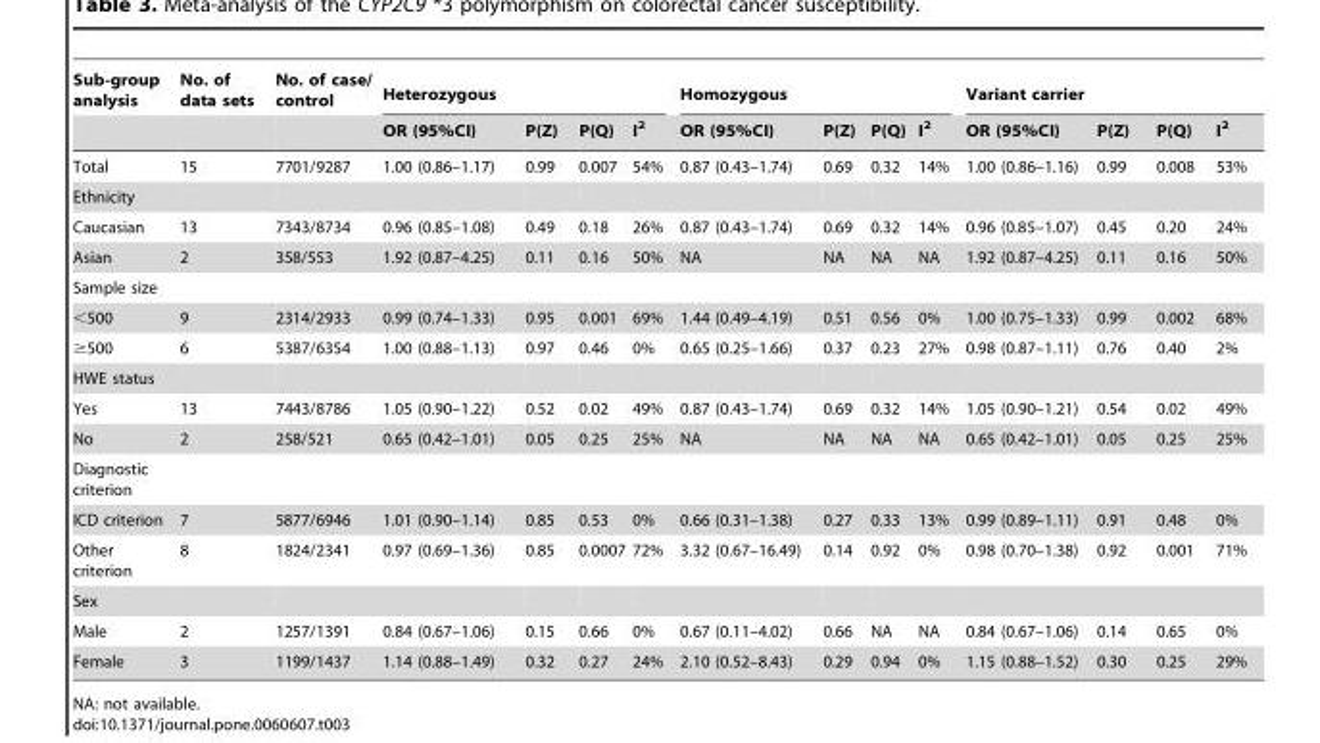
<table><thead><tr><td rowspan="2">Sub-group analysis</td><td rowspan="2">No. of data sets</td><td rowspan="2">No. of case/ control</td><td colspan="4">Heterozygous</td><td colspan="4">Homozygous</td><td colspan="4">Variant carrier</td></tr><tr><td>OR (95%CI)</td><td>P(Z)</td><td>P(Q)</td><td>I<sup>2</sup></td><td>OR (95%CI)</td><td>P(Z)</td><td>P(Q)</td><td>I<sup>2</sup></td><td>OR (95%CI)</td><td>P(Z)</td><td>P(Q)</td><td>I<sup>2</sup></td></tr></thead><tbody><tr><td>Total</td><td>15</td><td>7701/9287</td><td>1.00 (0.86–1.17)</td><td>0.99</td><td>0.007</td><td>54%</td><td>0.87 (0.43–1.74)</td><td>0.69</td><td>0.32</td><td>14%</td><td>1.00 (0.86–1.16)</td><td>0.99</td><td>0.008</td><td>53%</td></tr><tr><td colspan="15">Ethnicity</td></tr><tr><td>Caucasian</td><td>13</td><td>7343/8734</td><td>0.96 (0.85–1.08)</td><td>0.49</td><td>0.18</td><td>26%</td><td>0.87 (0.43–1.74)</td><td>0.69</td><td>0.32</td><td>14%</td><td>0.96 (0.85–1.07)</td><td>0.45</td><td>0.20</td><td>24%</td></tr><tr><td>Asian</td><td>2</td><td>358/553</td><td>1.92 (0.87–4.25)</td><td>0.11</td><td>0.16</td><td>50%</td><td>NA</td><td>NA</td><td>NA</td><td>NA</td><td>1.92 (0.87–4.25)</td><td>0.11</td><td>0.16</td><td>50%</td></tr><tr><td colspan="15">Sample size</td></tr><tr><td>&lt;500</td><td>9</td><td>2314/2933</td><td>0.99 (0.74–1.33)</td><td>0.95</td><td>0.001</td><td>69%</td><td>1.44 (0.49–4.19)</td><td>0.51</td><td>0.56</td><td>0%</td><td>1.00 (0.75–1.33)</td><td>0.99</td><td>0.002</td><td>68%</td></tr><tr><td>≥500</td><td>6</td><td>5387/6354</td><td>1.00 (0.88–1.13)</td><td>0.97</td><td>0.46</td><td>0%</td><td>0.65 (0.25–1.66)</td><td>0.37</td><td>0.23</td><td>27%</td><td>0.98 (0.87–1.11)</td><td>0.76</td><td>0.40</td><td>2%</td></tr><tr><td colspan="15">HWE status</td></tr><tr><td>Yes</td><td>13</td><td>7443/8786</td><td>1.05 (0.90–1.22)</td><td>0.52</td><td>0.02</td><td>49%</td><td>0.87 (0.43–1.74)</td><td>0.69</td><td>0.32</td><td>14%</td><td>1.05 (0.90–1.21)</td><td>0.54</td><td>0.02</td><td>49%</td></tr><tr><td>No</td><td>2</td><td>258/521</td><td>0.65 (0.42–1.01)</td><td>0.05</td><td>0.25</td><td>25%</td><td>NA</td><td>NA</td><td>NA</td><td>NA</td><td>0.65 (0.42–1.01)</td><td>0.05</td><td>0.25</td><td>25%</td></tr><tr><td colspan="15">Diagnostic criterion</td></tr><tr><td>ICD criterion</td><td>7</td><td>5877/6946</td><td>1.01 (0.90–1.14)</td><td>0.85</td><td>0.53</td><td>0%</td><td>0.66 (0.31–1.38)</td><td>0.27</td><td>0.33</td><td>13%</td><td>0.99 (0.89–1.11)</td><td>0.91</td><td>0.48</td><td>0%</td></tr><tr><td>Other criterion</td><td>8</td><td>1824/2341</td><td>0.97 (0.69–1.36)</td><td>0.85</td><td>0.0007</td><td>72%</td><td>3.32 (0.67–16.49)</td><td>0.14</td><td>0.92</td><td>0%</td><td>0.98 (0.70–1.38)</td><td>0.92</td><td>0.001</td><td>71%</td></tr><tr><td colspan="15">Sex</td></tr><tr><td>Male</td><td>2</td><td>1257/1391</td><td>0.84 (0.67–1.06)</td><td>0.15</td><td>0.66</td><td>0%</td><td>0.67 (0.11–4.02)</td><td>0.66</td><td>NA</td><td>NA</td><td>0.84 (0.67–1.06)</td><td>0.14</td><td>0.65</td><td>0%</td></tr><tr><td>Female</td><td>3</td><td>1199/1437</td><td>1.14 (0.88–1.49)</td><td>0.32</td><td>0.27</td><td>24%</td><td>2.10 (0.52–8.43)</td><td>0.29</td><td>0.94</td><td>0%</td><td>1.15 (0.88–1.52)</td><td>0.30</td><td>0.25</td><td>29%</td></tr></tbody></table>